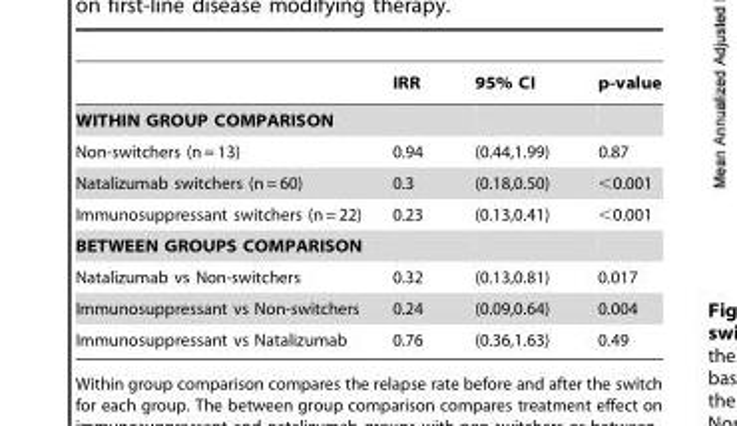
<table><thead><tr><td></td><td>IRR</td><td>95% CI</td><td>p-value</td></tr></thead><tbody><tr><td colspan="4">WITHIN GROUP COMPARISON</td></tr><tr><td>Non-switchers (n = 13)</td><td>0.94</td><td>(0.44,1.99)</td><td>0.87</td></tr><tr><td>Natalizumab switchers (n = 60)</td><td>0.3</td><td>(0.18,0.50)</td><td>&lt;0.001</td></tr><tr><td>Immunosuppressant switchers (n = 22)</td><td>0.23</td><td>(0.13,0.41)</td><td>&lt;0.001</td></tr><tr><td colspan="4">BETWEEN GROUPS COMPARISON</td></tr><tr><td>Natalizumab vs Non-switchers</td><td>0.32</td><td>(0.13,0.81)</td><td>0.017</td></tr><tr><td>Immunosuppressant vs Non-switchers</td><td>0.24</td><td>(0.09,0.64)</td><td>0.004</td></tr><tr><td>Immunosuppressant vs Natalizumab</td><td>0.76</td><td>(0.36,1.63)</td><td>0.49</td></tr></tbody></table>